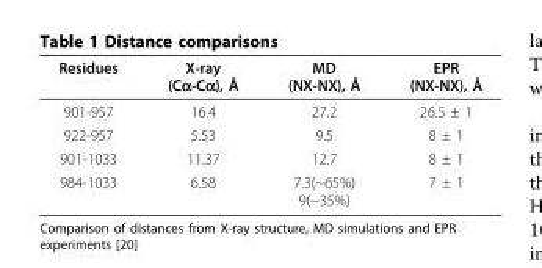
<table><thead><tr><td>Residues</td><td>X-ray (Cα-Cα), Å</td><td>MD (NX-NX), Å</td><td>EPR (NX-NX), Å</td></tr></thead><tbody><tr><td>901-957</td><td>16.4</td><td>27.2</td><td>26.5 ± 1</td></tr><tr><td>922-957</td><td>5.53</td><td>9.5</td><td>8 ± 1</td></tr><tr><td>901-1033</td><td>11.37</td><td>12.7</td><td>8 ± 1</td></tr><tr><td>984-1033</td><td>6.58</td><td>7.3(~65%) 9(~35%)</td><td>7 ± 1</td></tr></tbody></table>